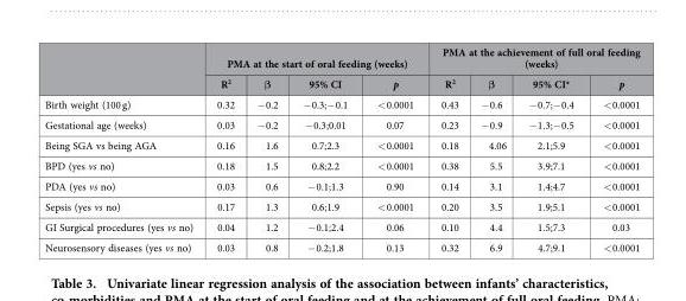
<table><thead><tr><td rowspan="2"></td><td colspan="4">PMA at the start of oral feeding (weeks)</td><td colspan="4">PMA at the achievement of full oral feeding (weeks)</td></tr><tr><td>R<sup>2</sup></td><td>β</td><td>95% CI</td><td>p</td><td>R<sup>2</sup></td><td>β</td><td>95% CI*</td><td>p</td></tr></thead><tbody><tr><td>Birth weight (100 g)</td><td>0.32</td><td>− 0.2</td><td>− 0.3;− 0.1</td><td>&lt; 0.0001</td><td>0.43</td><td>− 0.6</td><td>− 0.7;− 0.4</td><td>&lt; 0.0001</td></tr><tr><td>Gestational age (weeks)</td><td>0.03</td><td>− 0.2</td><td>− 0.3;0.01</td><td>0.07</td><td>0.23</td><td>− 0.9</td><td>− 1.3;− 0.5</td><td>&lt; 0.0001</td></tr><tr><td>Being SGA vs being AGA</td><td>0.16</td><td>1.6</td><td>0.7;2.3</td><td>&lt; 0.0001</td><td>0.18</td><td>4.06</td><td>2.1;5.9</td><td>&lt; 0.0001</td></tr><tr><td>BPD (yes vs no)</td><td>0.18</td><td>1.5</td><td>0.8;2.2</td><td>&lt; 0.0001</td><td>0.38</td><td>5.5</td><td>3.9;7.1</td><td>&lt; 0.0001</td></tr><tr><td>PDA (yes vs no)</td><td>0.03</td><td>0.6</td><td>− 0.1;1.3</td><td>0.90</td><td>0.14</td><td>3.1</td><td>1.4;4.7</td><td>&lt; 0.0001</td></tr><tr><td>Sepsis (yes vs no)</td><td>0.17</td><td>1.3</td><td>0.6;1.9</td><td>&lt; 0.0001</td><td>0.20</td><td>3.5</td><td>1.9;5.1</td><td>&lt; 0.0001</td></tr><tr><td>GI Surgical procedures (yes vs no)</td><td>0.04</td><td>1.2</td><td>− 0.1;2.4</td><td>0.06</td><td>0.10</td><td>4.4</td><td>1.5;7.3</td><td>0.03</td></tr><tr><td>Neurosensory diseases (yes vs no)</td><td>0.03</td><td>0.8</td><td>− 0.2;1.8</td><td>0.13</td><td>0.32</td><td>6.9</td><td>4.7;9.1</td><td>&lt; 0.0001</td></tr></tbody></table>